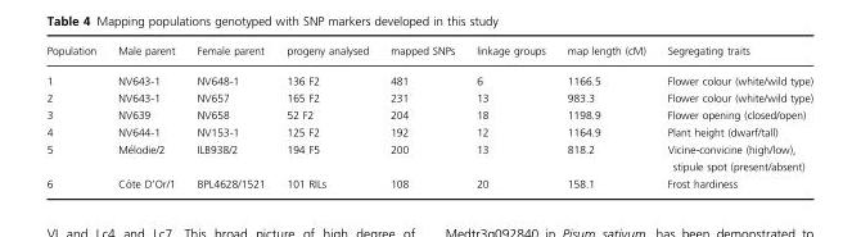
<table><thead><tr><td>Population</td><td>Male parent</td><td>Female parent</td><td>progeny analysed</td><td>mapped SNPs</td><td>linkage groups</td><td>map length (cM)</td><td>Segregating traits</td></tr></thead><tbody><tr><td>1</td><td>NV643-1</td><td>NV648-1</td><td>136 F2</td><td>481</td><td>6</td><td>1166.5</td><td>Flower colour (white/wild type)</td></tr><tr><td>2</td><td>NV643-1</td><td>NV657</td><td>165 F2</td><td>231</td><td>13</td><td>983.3</td><td>Flower colour (white/wild type)</td></tr><tr><td>3</td><td>NV639</td><td>NV658</td><td>52 F2</td><td>204</td><td>18</td><td>1198.9</td><td>Flower opening (closed/open)</td></tr><tr><td>4</td><td>NV644-1</td><td>NV153-1</td><td>125 F2</td><td>192</td><td>12</td><td>1164.9</td><td>Plant height (dwarf/tall)</td></tr><tr><td>5</td><td>M�elodie/2</td><td>ILB938/2</td><td>194 F5</td><td>200</td><td>13</td><td>818.2</td><td>Vicine-convicine (high/low), stipule spot (present/absent)</td></tr><tr><td>6</td><td>C^ote D’Or/1</td><td>BPL4628/1521</td><td>101 RILs</td><td>108</td><td>20</td><td>158.1</td><td>Frost hardiness</td></tr></tbody></table>